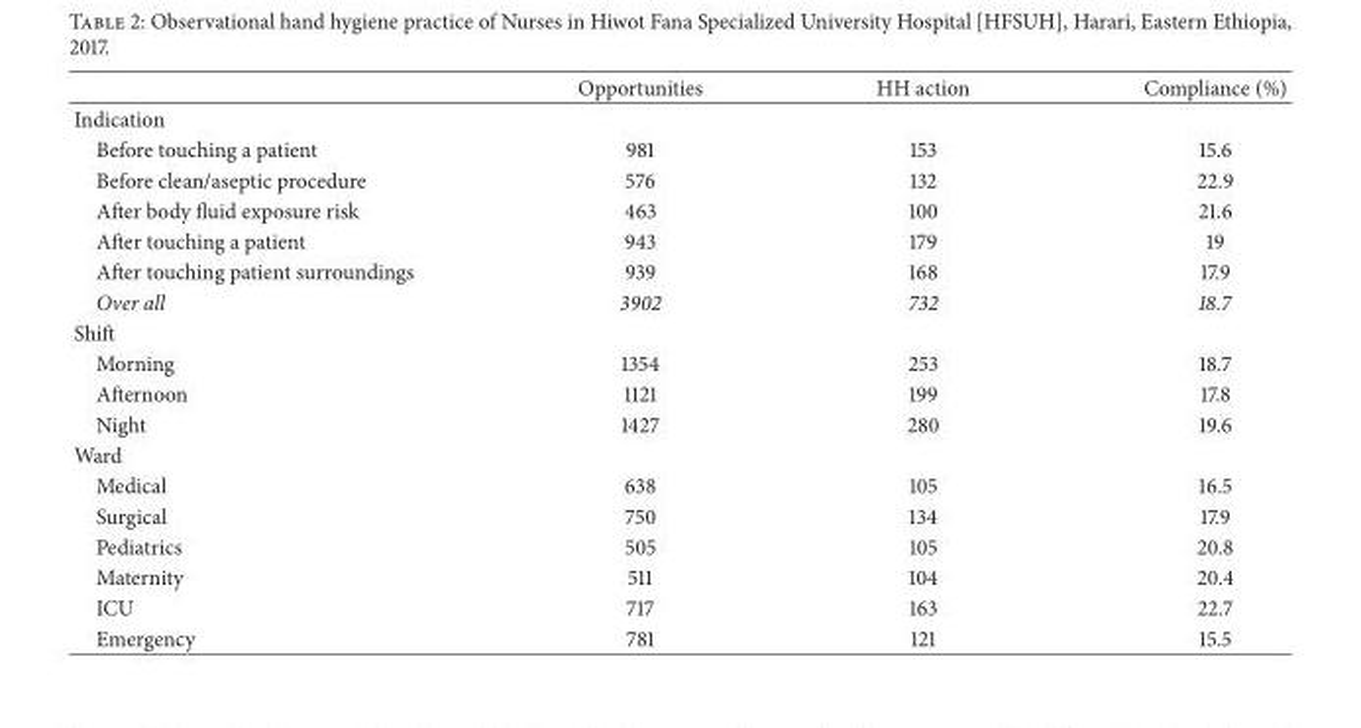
<table><thead><tr><td></td><td>Opportunities</td><td>HH action</td><td>Compliance (%)</td></tr></thead><tbody><tr><td colspan="4">Indication</td></tr><tr><td>Before touching a patient</td><td>981</td><td>153</td><td>15.6</td></tr><tr><td>Before clean/aseptic procedure</td><td>576</td><td>132</td><td>22.9</td></tr><tr><td>After body fluid exposure risk</td><td>463</td><td>100</td><td>21.6</td></tr><tr><td>After touching a patient</td><td>943</td><td>179</td><td>19</td></tr><tr><td>After touching patient surroundings</td><td>939</td><td>168</td><td>17.9</td></tr><tr><td>Over all</td><td>3902</td><td>732</td><td>18.7</td></tr><tr><td colspan="4">Shift</td></tr><tr><td>Morning</td><td>1354</td><td>253</td><td>18.7</td></tr><tr><td>Afternoon</td><td>1121</td><td>199</td><td>17.8</td></tr><tr><td>Night</td><td>1427</td><td>280</td><td>19.6</td></tr><tr><td colspan="4">Ward</td></tr><tr><td>Medical</td><td>638</td><td>105</td><td>16.5</td></tr><tr><td>Surgical</td><td>750</td><td>134</td><td>17.9</td></tr><tr><td>Pediatrics</td><td>505</td><td>105</td><td>20.8</td></tr><tr><td>Maternity</td><td>511</td><td>104</td><td>20.4</td></tr><tr><td>ICU</td><td>717</td><td>163</td><td>22.7</td></tr><tr><td>Emergency</td><td>781</td><td>121</td><td>15.5</td></tr></tbody></table>